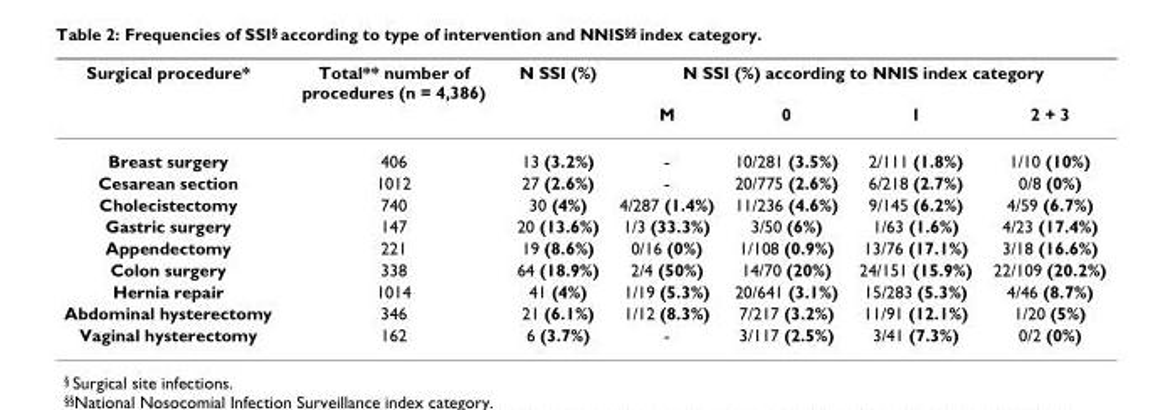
<table><thead><tr><td rowspan="2">Surgical procedure*</td><td rowspan="2">Total** number of procedures (n = 4,386)</td><td rowspan="2">N SSI (%)</td><td colspan="4">N SSI (%) according to NNIS index category</td></tr><tr><td>M</td><td>0</td><td>1</td><td>2 + 3</td></tr></thead><tbody><tr><td>Breast surgery</td><td>406</td><td>13 (3.2%)</td><td>-</td><td>10/281 (3.5%)</td><td>2/111 (1.8%)</td><td>1/10 (10%)</td></tr><tr><td>Cesarean section</td><td>1012</td><td>27 (2.6%)</td><td>-</td><td>20/775 (2.6%)</td><td>6/218 (2.7%)</td><td>0/8 (0%)</td></tr><tr><td>Cholecistectomy</td><td>740</td><td>30 (4%)</td><td>4/287 (1.4%)</td><td>11/236 (4.6%)</td><td>9/145 (6.2%)</td><td>4/59 (6.7%)</td></tr><tr><td>Gastric surgery</td><td>147</td><td>20 (13.6%)</td><td>1/3 (33.3%)</td><td>3/50 (6%)</td><td>1/63 (1.6%)</td><td>4/23 (17.4%)</td></tr><tr><td>Appendectomy</td><td>221</td><td>19 (8.6%)</td><td>0/16 (0%)</td><td>1/108 (0.9%)</td><td>13/76 (17.1%)</td><td>3/18 (16.6%)</td></tr><tr><td>Colon surgery</td><td>338</td><td>64 (18.9%)</td><td>2/4 (50%)</td><td>14/70 (20%)</td><td>24/151 (15.9%)</td><td>22/109 (20.2%)</td></tr><tr><td>Hernia repair</td><td>1014</td><td>41 (4%)</td><td>1/19 (5.3%)</td><td>20/641 (3.1%)</td><td>15/283 (5.3%)</td><td>4/46 (8.7%)</td></tr><tr><td>Abdominal hysterectomy</td><td>346</td><td>21 (6.1%)</td><td>1/12 (8.3%)</td><td>7/217 (3.2%)</td><td>11/91 (12.1%)</td><td>1/20 (5%)</td></tr><tr><td>Vaginal hysterectomy</td><td>162</td><td>6 (3.7%)</td><td>-</td><td>3/117 (2.5%)</td><td>3/41 (7.3%)</td><td>0/2 (0%)</td></tr></tbody></table>